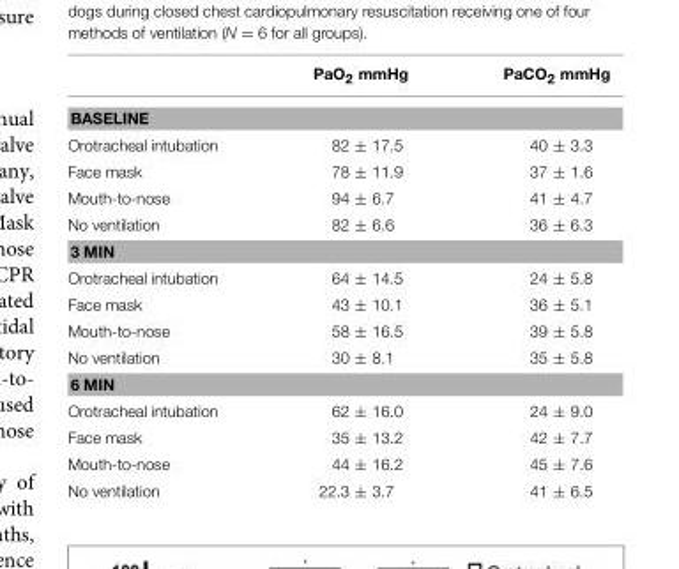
<table><thead><tr><td></td><td>PaO<sub>2</sub> mmHg</td><td>PaCO<sub>2</sub> mmHg</td></tr></thead><tbody><tr><td colspan="3">BASELINE</td></tr><tr><td>Orotracheal intubation</td><td>82 ± 17.5</td><td>40 ± 3.3</td></tr><tr><td>Face mask</td><td>78 ± 11.9</td><td>37 ± 1.6</td></tr><tr><td>Mouth-to-nose</td><td>94 ± 6.7</td><td>41 ± 4.7</td></tr><tr><td>No ventilation</td><td>82 ± 6.6</td><td>36 ± 6.3</td></tr><tr><td colspan="3">3 MIN</td></tr><tr><td>Orotracheal intubation</td><td>64 ± 14.5</td><td>24 ± 5.8</td></tr><tr><td>Face mask</td><td>43 ± 10.1</td><td>36 ± 5.1</td></tr><tr><td>Mouth-to-nose</td><td>58 ± 16.5</td><td>39 ± 5.8</td></tr><tr><td>No ventilation</td><td>30 ± 8.1</td><td>35 ± 5.8</td></tr><tr><td colspan="3">6 MIN</td></tr><tr><td>Orotracheal intubation</td><td>62 ± 16.0</td><td>24 ± 9.0</td></tr><tr><td>Face mask</td><td>35 ± 13.2</td><td>42 ± 7.7</td></tr><tr><td>Mouth-to-nose</td><td>44 ± 16.2</td><td>45 ± 7.6</td></tr><tr><td>No ventilation</td><td>22.3 ± 3.7</td><td>41 ± 6.5</td></tr></tbody></table>